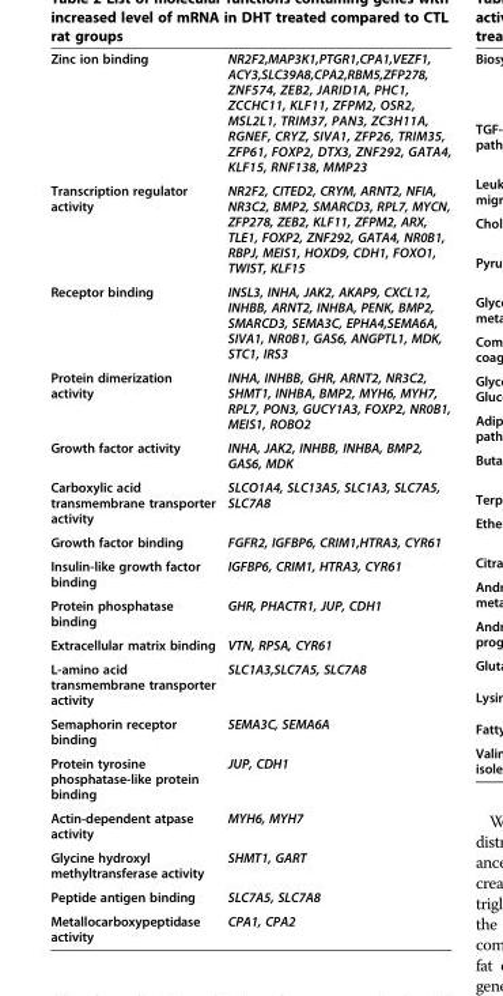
<table><tbody><tr><td>Zinc ion binding</td><td>NR2F2,MAP3K1,PTGR1,CPA1,VEZF1, ACY3,SLC39A8,CPA2,RBM5,ZFP278, ZNF574, ZEB2, JARID1A, PHC1, ZCCHC11, KLF11, ZFPM2, OSR2, MSL2L1, TRIM37, PAN3, ZC3H11A, RGNEF, CRYZ, SIVA1, ZFP26, TRIM35, ZFP61, FOXP2, DTX3, ZNF292, GATA4, KLF15, RNF138, MMP23</td></tr><tr><td>Transcription regulator activity</td><td>NR2F2, CITED2, CRYM, ARNT2, NFIA, NR3C2, BMP2, SMARCD3, RPL7, MYCN, ZFP278, ZEB2, KLF11, ZFPM2, ARX, TLE1, FOXP2, ZNF292, GATA4, NR0B1, RBPJ, MEIS1, HOXD9, CDH1, FOXO1, TWIST, KLF15</td></tr><tr><td>Receptor binding</td><td>INSL3, INHA, JAK2, AKAP9, CXCL12, INHBB, ARNT2, INHBA, PENK, BMP2, SMARCD3, SEMA3C, EPHA4,SEMA6A, SIVA1, NR0B1, GAS6, ANGPTL1, MDK, STC1, IRS3</td></tr><tr><td>Protein dimerization activity</td><td>INHA, INHBB, GHR, ARNT2, NR3C2, SHMT1, INHBA, BMP2, MYH6, MYH7, RPL7, PON3, GUCY1A3, FOXP2, NR0B1, MEIS1, ROBO2</td></tr><tr><td>Growth factor activity</td><td>INHA, JAK2, INHBB, INHBA, BMP2, GAS6, MDK</td></tr><tr><td>Carboxylic acid transmembrane transporter activity</td><td>SLCO1A4, SLC13A5, SLC1A3, SLC7A5, SLC7A8</td></tr><tr><td>Growth factor binding</td><td>FGFR2, IGFBP6, CRIM1,HTRA3, CYR61</td></tr><tr><td>Insulin-like growth factor binding</td><td>IGFBP6, CRIM1, HTRA3, CYR61</td></tr><tr><td>Protein phosphatase binding</td><td>GHR, PHACTR1, JUP, CDH1</td></tr><tr><td>Extracellular matrix binding</td><td>VTN, RPSA, CYR61</td></tr><tr><td>L-amino acid transmembrane transporter activity</td><td>SLC1A3,SLC7A5, SLC7A8</td></tr><tr><td>Semaphorin receptor binding</td><td>SEMA3C, SEMA6A</td></tr><tr><td>Protein tyrosine phosphatase-like protein binding</td><td>JUP, CDH1</td></tr><tr><td>Actin-dependent atpase activity</td><td>MYH6, MYH7</td></tr><tr><td>Glycine hydroxyl methyltransferase activity</td><td>SHMT1, GART</td></tr><tr><td>Peptide antigen binding</td><td>SLC7A5, SLC7A8</td></tr><tr><td>Metallocarboxypeptidase activity</td><td>CPA1, CPA2</td></tr></tbody></table>